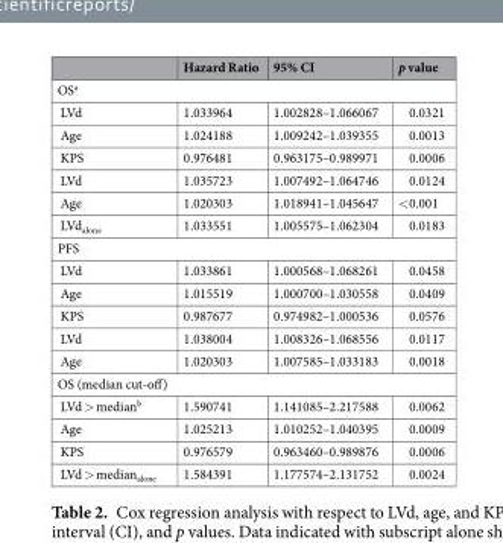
<table><thead><tr><td></td><td>Hazard Ratio</td><td>95% CI</td><td>p value</td></tr></thead><tbody><tr><td colspan="4">OS<sup>a</sup></td></tr><tr><td>LVd</td><td>1.033964</td><td>1.002828–1.066067</td><td>0.0321</td></tr><tr><td>Age</td><td>1.024188</td><td>1.009242–1.039355</td><td>0.0013</td></tr><tr><td>KPS</td><td>0.976481</td><td>0.963175–0.989971</td><td>0.0006</td></tr><tr><td>LVd</td><td>1.035723</td><td>1.007492–1.064746</td><td>0.0124</td></tr><tr><td>Age</td><td>1.020303</td><td>1.018941–1.045647</td><td>&lt;0.001</td></tr><tr><td>LVd<sub>alone</sub></td><td>1.033551</td><td>1.005575–1.062304</td><td>0.0183</td></tr><tr><td colspan="4">PFS</td></tr><tr><td>LVd</td><td>1.033861</td><td>1.000568–1.068261</td><td>0.0458</td></tr><tr><td>Age</td><td>1.015519</td><td>1.000700–1.030558</td><td>0.0409</td></tr><tr><td>KPS</td><td>0.987677</td><td>0.974982–1.000536</td><td>0.0576</td></tr><tr><td>LVd</td><td>1.038004</td><td>1.008326–1.068556</td><td>0.0117</td></tr><tr><td>Age</td><td>1.020303</td><td>1.007585–1.033183</td><td>0.0018</td></tr><tr><td colspan="4">OS (median cut-off)</td></tr><tr><td>LVd &gt; median<sup>b</sup></td><td>1.590741</td><td>1.141085–2.217588</td><td>0.0062</td></tr><tr><td>Age</td><td>1.025213</td><td>1.010252–1.040395</td><td>0.0009</td></tr><tr><td>KPS</td><td>0.976579</td><td>0.963460–0.989876</td><td>0.0006</td></tr><tr><td>LVd &gt; median<sub>alone</sub></td><td>1.584391</td><td>1.177574–2.131752</td><td>0.0024</td></tr></tbody></table>